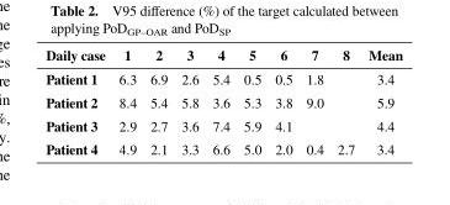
<table><thead><tr><td>Daily case</td><td>1</td><td>2</td><td>3</td><td>4</td><td>5</td><td>6</td><td>7</td><td>8</td><td>Mean</td></tr></thead><tbody><tr><td>Patient 1</td><td>6.3</td><td>6.9</td><td>2.6</td><td>5.4</td><td>0.5</td><td>0.5</td><td>1.8</td><td></td><td>3.4</td></tr><tr><td>Patient 2</td><td>8.4</td><td>5.4</td><td>5.8</td><td>3.6</td><td>5.3</td><td>3.8</td><td>9.0</td><td></td><td>5.9</td></tr><tr><td>Patient 3</td><td>2.9</td><td>2.7</td><td>3.6</td><td>7.4</td><td>5.9</td><td>4.1</td><td></td><td></td><td>4.4</td></tr><tr><td>Patient 4</td><td>4.9</td><td>2.1</td><td>3.3</td><td>6.6</td><td>5.0</td><td>2.0</td><td>0.4</td><td>2.7</td><td>3.4</td></tr></tbody></table>